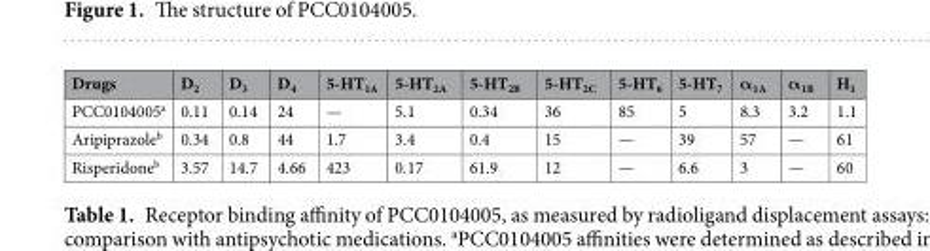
<table><thead><tr><td>Drugs</td><td>D<sub>2</sub></td><td>D<sub>3</sub></td><td>D<sub>4</sub></td><td>5-HT<sub>1A</sub></td><td>5-HT<sub>2A</sub></td><td>5-HT<sub>2B</sub></td><td>5-HT<sub>2C</sub></td><td>5-HT<sub>6</sub></td><td>5-HT<sub>7</sub></td><td>α<sub>1A</sub></td><td>α<sub>1B</sub></td><td>H<sub>1</sub></td></tr></thead><tbody><tr><td>PCC0104005<sup>a</sup></td><td>0.11</td><td>0.14</td><td>24</td><td>—</td><td>5.1</td><td>0.34</td><td>36</td><td>85</td><td>5</td><td>8.3</td><td>3.2</td><td>1.1</td></tr><tr><td>Aripiprazole<sup>b</sup></td><td>0.34</td><td>0.8</td><td>44</td><td>1.7</td><td>3.4</td><td>0.4</td><td>15</td><td>—</td><td>39</td><td>57</td><td>—</td><td>61</td></tr><tr><td>Risperidone<sup>b</sup></td><td>3.57</td><td>14.7</td><td>4.66</td><td>423</td><td>0.17</td><td>61.9</td><td>12</td><td>—</td><td>6.6</td><td>3</td><td>—</td><td>60</td></tr></tbody></table>